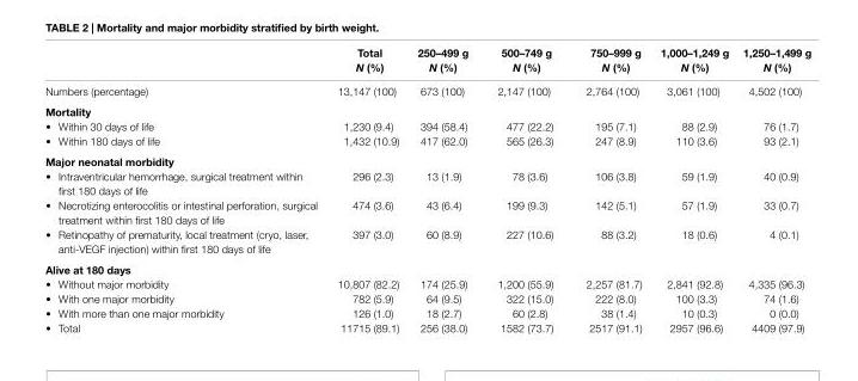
<table><thead><tr><td></td><td>Total N (%)</td><td>250–499 g N (%)</td><td>500–749 g N (%)</td><td>750–999 g N (%)</td><td>1,000–1,249 g N (%)</td><td>1,250–1,499 g N (%)</td></tr></thead><tbody><tr><td>Numbers (percentage)</td><td>13,147 (100)</td><td>673 (100)</td><td>2,147 (100)</td><td>2,764 (100)</td><td>3,061 (100)</td><td>4,502 (100)</td></tr><tr><td colspan="7">Mortality</td></tr><tr><td>• Within 30 days of life</td><td>1,230 (9.4)</td><td>394 (58.4)</td><td>477 (22.2)</td><td>195 (7.1)</td><td>88 (2.9)</td><td>76 (1.7)</td></tr><tr><td>• Within 180 days of life</td><td>1,432 (10.9)</td><td>417 (62.0)</td><td>565 (26.3)</td><td>247 (8.9)</td><td>110 (3.6)</td><td>93 (2.1)</td></tr><tr><td colspan="7">Major neonatal morbidity</td></tr><tr><td>• Intraventricular hemorrhage, surgical treatment within first 180 days of life</td><td>296 (2.3)</td><td>13 (1.9)</td><td>78 (3.6)</td><td>106 (3.8)</td><td>59 (1.9)</td><td>40 (0.9)</td></tr><tr><td>• Necrotizing enterocolitis or intestinal perforation, surgical treatment within first 180 days of life</td><td>474 (3.6)</td><td>43 (6.4)</td><td>199 (9.3)</td><td>142 (5.1)</td><td>57 (1.9)</td><td>33 (0.7)</td></tr><tr><td>• Retinopathy of prematurity, local treatment (cryo, laser, anti-VEGF injection) within first 180 days of life</td><td>397 (3.0)</td><td>60 (8.9)</td><td>227 (10.6)</td><td>88 (3.2)</td><td>18 (0.6)</td><td>4 (0.1)</td></tr><tr><td colspan="7">alive at 180 days</td></tr><tr><td>• Without major morbidity</td><td>10,807 (82.2)</td><td>174 (25.9)</td><td>1,200 (55.9)</td><td>2,257 (81.7)</td><td>2,841 (92.8)</td><td>4,335 (96.3)</td></tr><tr><td>• With one major morbidity</td><td>782 (5.9)</td><td>64 (9.5)</td><td>322 (15.0)</td><td>222 (8.0)</td><td>100 (3.3)</td><td>74 (1.6)</td></tr><tr><td>• With more than one major morbidity</td><td>126 (1.0)</td><td>18 (2.7)</td><td>60 (2.8)</td><td>38 (1.4)</td><td>10 (0.3)</td><td>0 (0.0)</td></tr><tr><td>• Total</td><td>11715 (89.1)</td><td>256 (38.0)</td><td>1582 (73.7)</td><td>2517 (91.1)</td><td>2957 (96.6)</td><td>4409 (97.9)</td></tr></tbody></table>